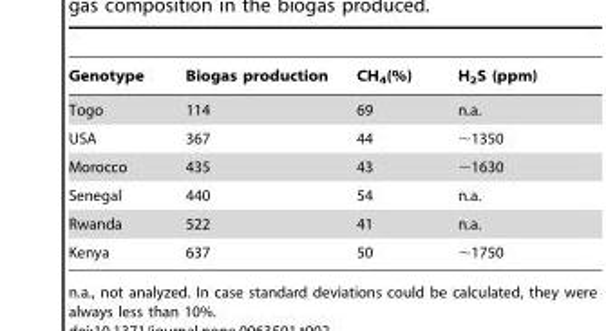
<table><thead><tr><td>Genotype</td><td>Biogas production</td><td>CH<sub>4</sub>(%)</td><td>H<sub>2</sub>S (ppm)</td></tr></thead><tbody><tr><td>Togo</td><td>114</td><td>69</td><td>n.a.</td></tr><tr><td>USA</td><td>367</td><td>44</td><td>∼1350</td></tr><tr><td>Morocco</td><td>435</td><td>43</td><td>∼1630</td></tr><tr><td>Senegal</td><td>440</td><td>54</td><td>n.a.</td></tr><tr><td>Rwanda</td><td>522</td><td>41</td><td>n.a.</td></tr><tr><td>Kenya</td><td>637</td><td>50</td><td>∼1750</td></tr></tbody></table>